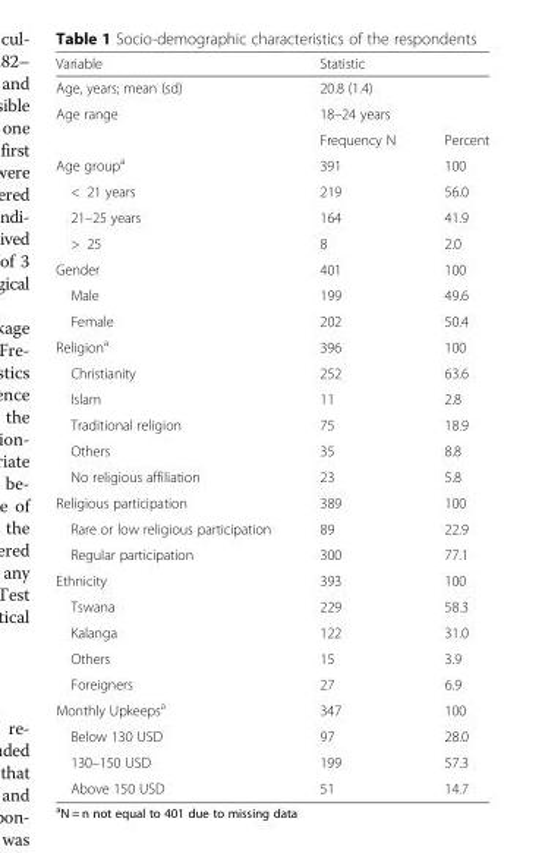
<table><thead><tr><td>Variable</td><td>Statistic</td><td></td></tr></thead><tbody><tr><td>Age, years; mean (sd)</td><td>20.8 (1.4)</td><td></td></tr><tr><td rowspan="2">Age range</td><td>18–24 years</td><td></td></tr><tr><td>Frequency N</td><td>Percent</td></tr><tr><td>Age group<sup>a</sup></td><td>391</td><td>100</td></tr><tr><td>&lt; 21 years</td><td>219</td><td>56.0</td></tr><tr><td>21–25 years</td><td>164</td><td>41.9</td></tr><tr><td>&gt; 25</td><td>8</td><td>2.0</td></tr><tr><td>Gender</td><td>401</td><td>100</td></tr><tr><td>Male</td><td>199</td><td>49.6</td></tr><tr><td>Female</td><td>202</td><td>50.4</td></tr><tr><td>Religion<sup>a</sup></td><td>396</td><td>100</td></tr><tr><td>Christianity</td><td>252</td><td>63.6</td></tr><tr><td>Islam</td><td>11</td><td>2.8</td></tr><tr><td>Traditional religion</td><td>75</td><td>18.9</td></tr><tr><td>Others</td><td>35</td><td>8.8</td></tr><tr><td>No religious affiliation</td><td>23</td><td>5.8</td></tr><tr><td>Religious participation</td><td>389</td><td>100</td></tr><tr><td>Rare or low religious participation</td><td>89</td><td>22.9</td></tr><tr><td>Regular participation</td><td>300</td><td>77.1</td></tr><tr><td>Ethnicity</td><td>393</td><td>100</td></tr><tr><td>Tswana</td><td>229</td><td>58.3</td></tr><tr><td>Kalanga</td><td>122</td><td>31.0</td></tr><tr><td>Others</td><td>15</td><td>3.9</td></tr><tr><td>Foreigners</td><td>27</td><td>6.9</td></tr><tr><td>Monthly Upkeeps<sup>a</sup></td><td>347</td><td>100</td></tr><tr><td>Below 130 USD</td><td>97</td><td>28.0</td></tr><tr><td>130–150 USD</td><td>199</td><td>57.3</td></tr><tr><td>Above 150 USD</td><td>51</td><td>14.7</td></tr></tbody></table>